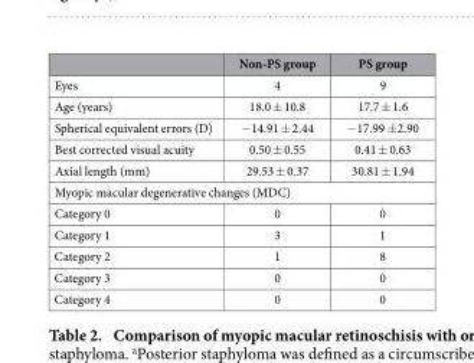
<table><thead><tr><td></td><td>Non-PS group</td><td>PS group</td></tr></thead><tbody><tr><td>Eyes</td><td>4</td><td>9</td></tr><tr><td>Age (years)</td><td>18.0 ± 10.8</td><td>17.7 ± 1.6</td></tr><tr><td>Spherical equivalent errors (D)</td><td>− 14.91 ± 2.44</td><td>− 17.99 ± 2.90</td></tr><tr><td>Best corrected visual acuity</td><td>0.50 ± 0.55</td><td>0.41 ± 0.63</td></tr><tr><td>Axial length (mm)</td><td>29.53 ± 0.37</td><td>30.81 ± 1.94</td></tr><tr><td colspan="3">Myopic macular degenerative changes (MDC)</td></tr><tr><td>Category 0</td><td>0</td><td>0</td></tr><tr><td>Category 1</td><td>3</td><td>1</td></tr><tr><td>Category 2</td><td>1</td><td>8</td></tr><tr><td>Category 3</td><td>0</td><td>0</td></tr><tr><td>Category 4</td><td>0</td><td>0</td></tr></tbody></table>